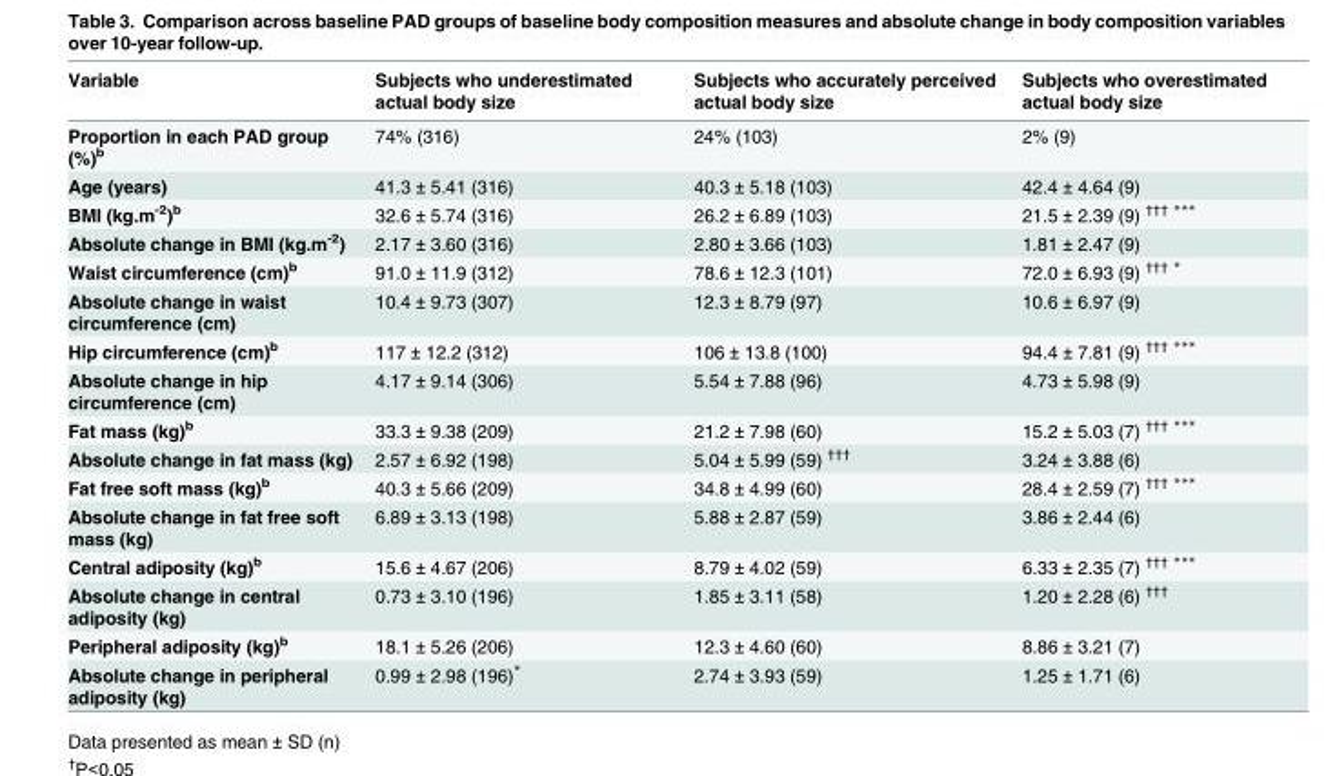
<table><thead><tr><td>Variable</td><td>Subjects who underestimated actual body size</td><td>Subjects who accurately perceived actual body size</td><td>Subjects who overestimated actual body size</td></tr></thead><tbody><tr><td>Proportion in each PAD group (%)<sup>b</sup></td><td>74% (316)</td><td>24% (103)</td><td>2% (9)</td></tr><tr><td>Age (years)</td><td>41.3 ± 5.41 (316)</td><td>40.3 ± 5.18 (103)</td><td>42.4 ± 4.64 (9)</td></tr><tr><td>BMI (kg.m<sup>-2</sup>)<sup>b</sup></td><td>32.6 ± 5.74 (316)</td><td>26.2 ± 6.89 (103)</td><td>21.5 ± 2.39 (9) <sup>††† ***</sup></td></tr><tr><td>Absolute change in BMI (kg.m<sup>-2</sup>)</td><td>2.17 ± 3.60 (316)</td><td>2.80 ± 3.66 (103)</td><td>1.81 ± 2.47 (9)</td></tr><tr><td>Waist circumference (cm)<sup>b</sup></td><td>91.0 ± 11.9 (312)</td><td>78.6 ± 12.3 (101)</td><td>72.0 ± 6.93 (9) <sup>††† *</sup></td></tr><tr><td>Absolute change in waist circumference (cm)</td><td>10.4 ± 9.73 (307)</td><td>12.3 ± 8.79 (97)</td><td>10.6 ± 6.97 (9)</td></tr><tr><td>Hip circumference (cm)<sup>b</sup></td><td>117 ± 12.2 (312)</td><td>106 ± 13.8 (100)</td><td>94.4 ± 7.81 (9) <sup>††† ***</sup></td></tr><tr><td>Absolute change in hip circumference (cm)</td><td>4.17 ± 9.14 (306)</td><td>5.54 ± 7.88 (96)</td><td>4.73 ± 5.98 (9)</td></tr><tr><td>Fat mass (kg)<sup>b</sup></td><td>33.3 ± 9.38 (209)</td><td>21.2 ± 7.98 (60)</td><td>15.2 ± 5.03 (7) <sup>††† ***</sup></td></tr><tr><td>Absolute change in fat mass (kg)</td><td>2.57 ± 6.92 (198)</td><td>5.04 ± 5.99 (59) <sup>†††</sup></td><td>3.24 ± 3.88 (6)</td></tr><tr><td>Fat free soft mass (kg)<sup>b</sup></td><td>40.3 ± 5.66 (209)</td><td>34.8 ± 4.99 (60)</td><td>28.4 ± 2.59 (7) <sup>††† ***</sup></td></tr><tr><td>Absolute change in fat free soft mass (kg)</td><td>6.89 ± 3.13 (198)</td><td>5.88 ± 2.87 (59)</td><td>3.86 ± 2.44 (6)</td></tr><tr><td>Central adiposity (kg)<sup>b</sup></td><td>15.6 ± 4.67 (206)</td><td>8.79 ± 4.02 (59)</td><td>6.33 ± 2.35 (7) <sup>††† ***</sup></td></tr><tr><td>Absolute change in central adiposity (kg)</td><td>0.73 ± 3.10 (196)</td><td>1.85 ± 3.11 (58)</td><td>1.20 ± 2.28 (6) <sup>†††</sup></td></tr><tr><td>Peripheral adiposity (kg)<sup>b</sup></td><td>18.1 ± 5.26 (206)</td><td>12.3 ± 4.60 (60)</td><td>8.86 ± 3.21 (7)</td></tr><tr><td>Absolute change in peripheral adiposity (kg)</td><td>0.99 ± 2.98 (196)*</td><td>2.74 ± 3.93 (59)</td><td>1.25 ± 1.71 (6)</td></tr></tbody></table>